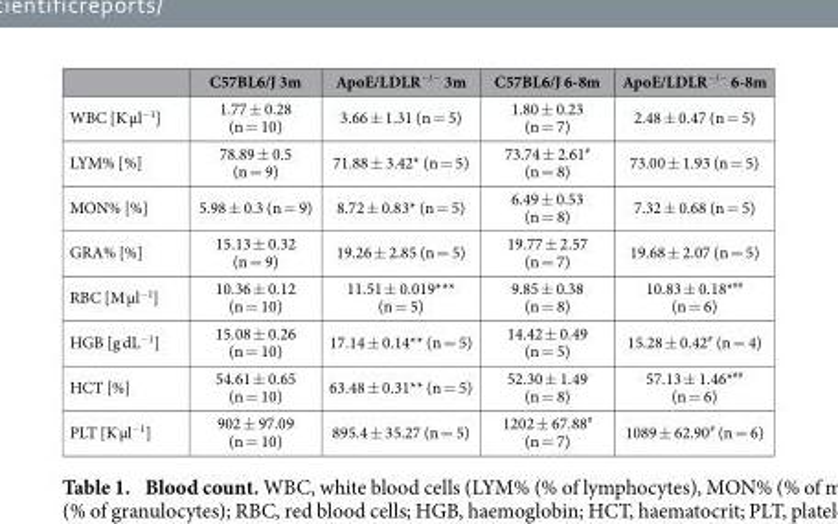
<table><thead><tr><td></td><td>C57BL6/J 3m</td><td>ApoE/LDLR<sup>−/−</sup> 3m</td><td>C57BL6/J 6-8m</td><td>ApoE/LDLR<sup>−/−</sup> 6-8m</td></tr></thead><tbody><tr><td>WBC [K<sup>·</sup>μl<sup>−1</sup>]</td><td>1.77 ± 0.28 (n = 10)</td><td>3.66 ± 1.31 (n = 5)</td><td>1.80 ± 0.23 (n = 7)</td><td>2.48 ± 0.47 (n = 5)</td></tr><tr><td>LYM% [%]</td><td>78.89 ± 0.5 (n = 9)</td><td>71.88 ± 3.42* (n = 5)</td><td>73.74 ± 2.61# (n = 8)</td><td>73.00 ± 1.93 (n = 5)</td></tr><tr><td>MON% [%]</td><td>5.98 ± 0.3 (n = 9)</td><td>8.72 ± 0.83* (n = 5)</td><td>6.49 ± 0.53 (n = 8)</td><td>7.32 ± 0.68 (n = 5)</td></tr><tr><td>GRA% [%]</td><td>15.13 ± 0.32 (n = 9)</td><td>19.26 ± 2.85 (n = 5)</td><td>19.77 ± 2.57 (n = 7)</td><td>19.68 ± 2.07 (n = 5)</td></tr><tr><td>RBC [M<sup>·</sup>μl<sup>−1</sup>]</td><td>10.36 ± 0.12 (n = 10)</td><td>11.51 ± 0.019*** (n = 5)</td><td>9.85 ± 0.38 (n = 8)</td><td>10.83 ± 0.18*<sup>##</sup> (n = 6)</td></tr><tr><td>HGB [g<sup>·</sup>dL<sup>−1</sup>]</td><td>15.08 ± 0.26 (n = 10)</td><td>17.14 ± 0.14** (n = 5)</td><td>14.42 ± 0.49 (n = 5)</td><td>15.28 ± 0.42<sup>#</sup> (n = 4)</td></tr><tr><td>HCT [%]</td><td>54.61 ± 0.65 (n = 10)</td><td>63.48 ± 0.31** (n = 5)</td><td>52.30 ± 1.49 (n = 8)</td><td>57.13 ± 1.46*<sup>##</sup> (n = 6)</td></tr><tr><td>PLT [K<sup>·</sup>μl<sup>−1</sup>]</td><td>902 ± 97.09 (n = 10)</td><td>895.4 ± 35.27 (n = 5)</td><td>1202 ± 67.88<sup>#</sup> (n = 7)</td><td>1089 ± 62.90<sup>#</sup> (n = 6)</td></tr></tbody></table>